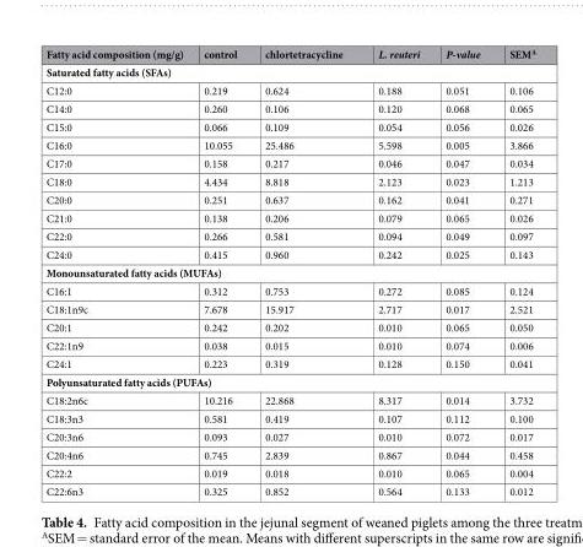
<table><thead><tr><td>Fatty acid composition (mg/g)</td><td>control</td><td>chlortetracycline</td><td>L. reuteri</td><td>P-value</td><td>SEM<sup>A</sup></td></tr></thead><tbody><tr><td colspan="6">Saturated fatty acids (SFAs)</td></tr><tr><td>C12:0</td><td>0.219</td><td>0.624</td><td>0.188</td><td>0.051</td><td>0.106</td></tr><tr><td>C14:0</td><td>0.260</td><td>0.106</td><td>0.120</td><td>0.068</td><td>0.065</td></tr><tr><td>C15:0</td><td>0.066</td><td>0.109</td><td>0.054</td><td>0.056</td><td>0.026</td></tr><tr><td>C16:0</td><td>10.055</td><td>25.486</td><td>5.598</td><td>0.005</td><td>3.866</td></tr><tr><td>C17:0</td><td>0.158</td><td>0.217</td><td>0.046</td><td>0.047</td><td>0.034</td></tr><tr><td>C18:0</td><td>4.434</td><td>8.818</td><td>2.123</td><td>0.023</td><td>1.213</td></tr><tr><td>C20:0</td><td>0.251</td><td>0.637</td><td>0.162</td><td>0.041</td><td>0.271</td></tr><tr><td>C21:0</td><td>0.138</td><td>0.206</td><td>0.079</td><td>0.065</td><td>0.026</td></tr><tr><td>C22:0</td><td>0.266</td><td>0.581</td><td>0.094</td><td>0.049</td><td>0.097</td></tr><tr><td>C24:0</td><td>0.415</td><td>0.960</td><td>0.242</td><td>0.025</td><td>0.143</td></tr><tr><td colspan="6">Monounsaturated fatty acids (MUFAs)</td></tr><tr><td>C16:1</td><td>0.312</td><td>0.753</td><td>0.272</td><td>0.085</td><td>0.124</td></tr><tr><td>C18:1n9c</td><td>7.678</td><td>15.917</td><td>2.717</td><td>0.017</td><td>2.521</td></tr><tr><td>C20:1</td><td>0.242</td><td>0.202</td><td>0.010</td><td>0.065</td><td>0.050</td></tr><tr><td>C22:1n9</td><td>0.038</td><td>0.015</td><td>0.010</td><td>0.074</td><td>0.006</td></tr><tr><td>C24:1</td><td>0.223</td><td>0.319</td><td>0.128</td><td>0.150</td><td>0.041</td></tr><tr><td colspan="6">Polyunsaturated fatty acids (PUFAs)</td></tr><tr><td>C18:2n6c</td><td>10.216</td><td>22.868</td><td>8.317</td><td>0.014</td><td>3.732</td></tr><tr><td>C18:3n3</td><td>0.581</td><td>0.419</td><td>0.107</td><td>0.112</td><td>0.100</td></tr><tr><td>C20:3n6</td><td>0.093</td><td>0.027</td><td>0.010</td><td>0.072</td><td>0.017</td></tr><tr><td>C20:4n6</td><td>0.745</td><td>2.839</td><td>0.867</td><td>0.044</td><td>0.458</td></tr><tr><td>C22:2</td><td>0.019</td><td>0.018</td><td>0.010</td><td>0.065</td><td>0.004</td></tr><tr><td>C22:6n3</td><td>0.325</td><td>0.852</td><td>0.564</td><td>0.133</td><td>0.012</td></tr></tbody></table>